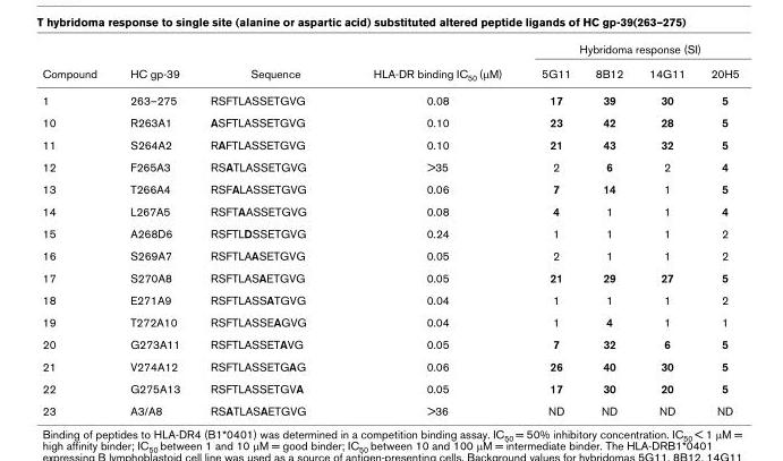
<table><thead><tr><td rowspan="2">Compound</td><td rowspan="2">HC gp-39</td><td rowspan="2">Sequence</td><td rowspan="2">HLA-DR binding IC<sub>50</sub> (μM)</td><td colspan="4">Hybridoma response (SI)</td></tr><tr><td>5G11</td><td>8B12</td><td>14G11</td><td>20H5</td></tr></thead><tbody><tr><td>1</td><td>263–275</td><td>RSFTLASSETGVG</td><td>0.08</td><td>17</td><td>39</td><td>30</td><td>5</td></tr><tr><td>10</td><td>R263A1</td><td>ASFTLASSETGVG</td><td>0.10</td><td>23</td><td>42</td><td>28</td><td>5</td></tr><tr><td>11</td><td>S264A2</td><td>RAFTLASSETGVG</td><td>0.10</td><td>21</td><td>43</td><td>32</td><td>5</td></tr><tr><td>12</td><td>F265A3</td><td>RSATLASSETGVG</td><td>&gt;35</td><td>2</td><td>6</td><td>2</td><td>4</td></tr><tr><td>13</td><td>T266A4</td><td>RSFALASSETGVG</td><td>0.06</td><td>7</td><td>14</td><td>1</td><td>5</td></tr><tr><td>14</td><td>L267A5</td><td>RSFTAASSETGVG</td><td>0.08</td><td>4</td><td>1</td><td>1</td><td>4</td></tr><tr><td>15</td><td>A268D6</td><td>RSFTLDSSETGVG</td><td>0.24</td><td>1</td><td>1</td><td>1</td><td>2</td></tr><tr><td>16</td><td>S269A7</td><td>RSFTLAASETGVG</td><td>0.05</td><td>2</td><td>1</td><td>1</td><td>2</td></tr><tr><td>17</td><td>S270A8</td><td>RSFTLASAETGVG</td><td>0.05</td><td>21</td><td>29</td><td>27</td><td>5</td></tr><tr><td>18</td><td>E271A9</td><td>RSFTLASSATGVG</td><td>0.04</td><td>1</td><td>1</td><td>1</td><td>2</td></tr><tr><td>19</td><td>T272A10</td><td>RSFTLASSEAGVG</td><td>0.04</td><td>1</td><td>4</td><td>1</td><td>1</td></tr><tr><td>20</td><td>G273A11</td><td>RSFTLASSETAVG</td><td>0.05</td><td>7</td><td>32</td><td>6</td><td>5</td></tr><tr><td>21</td><td>V274A12</td><td>RSFTLASSETGAG</td><td>0.06</td><td>26</td><td>40</td><td>30</td><td>5</td></tr><tr><td>22</td><td>G275A13</td><td>RSFTLASSETGVA</td><td>0.05</td><td>17</td><td>30</td><td>20</td><td>5</td></tr><tr><td>23</td><td>A3/A8</td><td>RSATLASAETGVG</td><td>&gt;36</td><td>ND</td><td>ND</td><td>ND</td><td>ND</td></tr></tbody></table>